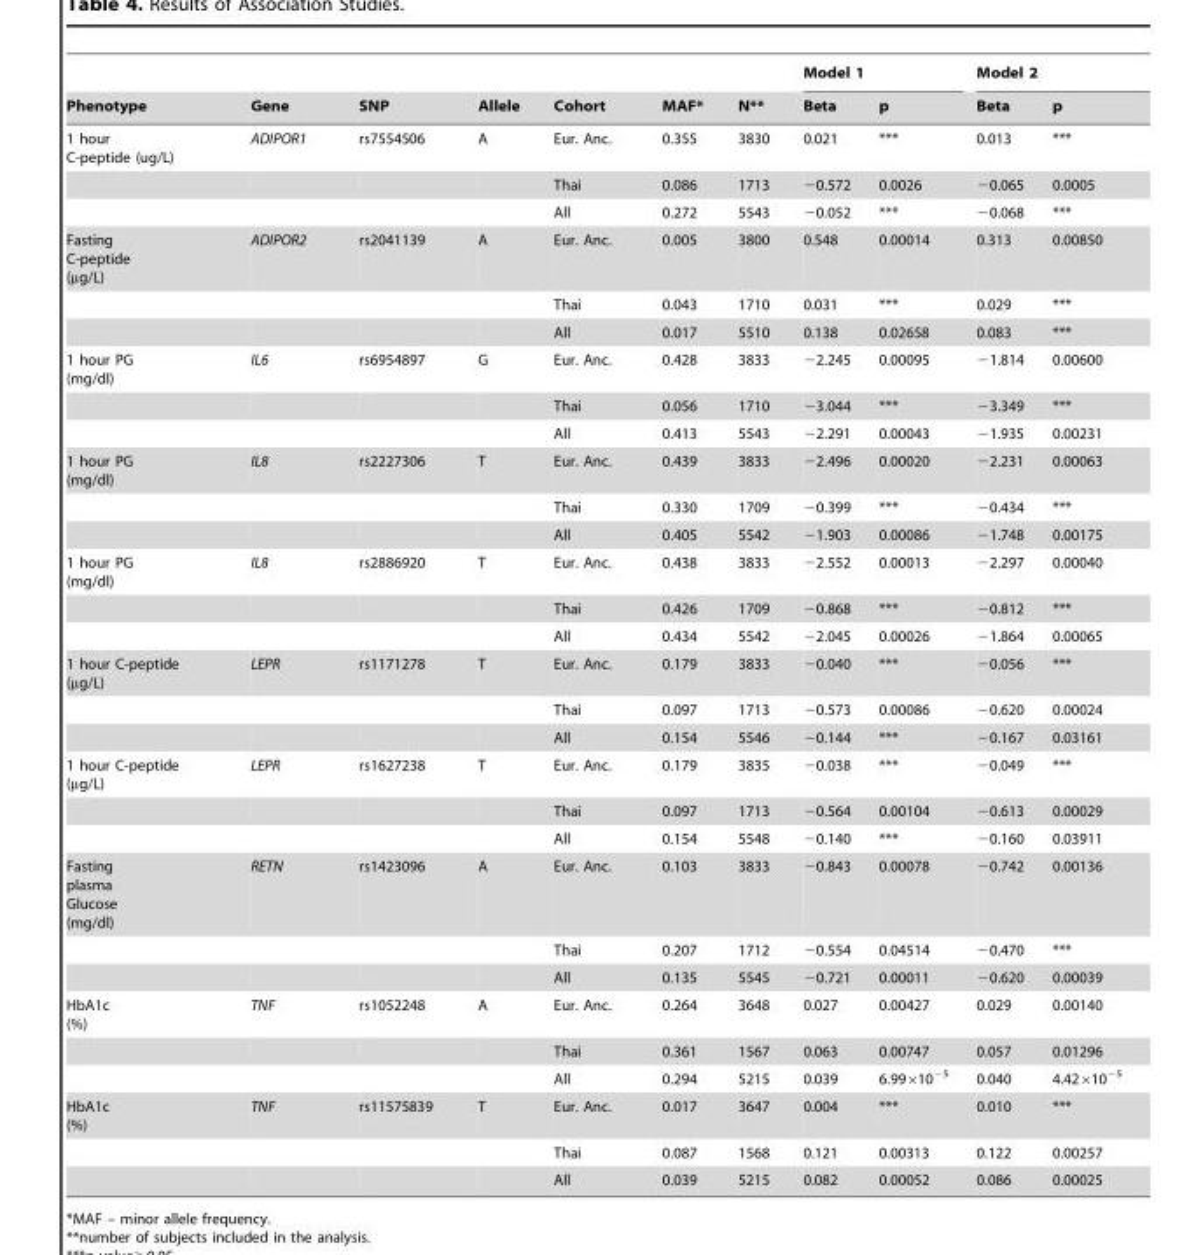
<table><thead><tr><td rowspan="2">Phenotype</td><td rowspan="2">Gene</td><td rowspan="2">SNP</td><td rowspan="2">Allele</td><td rowspan="2">Cohort</td><td rowspan="2">MAF*</td><td rowspan="2">N**</td><td colspan="2">Model 1</td><td colspan="2">Model 2</td></tr><tr><td>Beta</td><td>p</td><td>Beta</td><td>p</td></tr></thead><tbody><tr><td rowspan="3">1 hour C-peptide (ug/L)</td><td>ADIPOR1</td><td>rs7554506</td><td>A</td><td>Eur. Anc.</td><td>0.355</td><td>3830</td><td>0.021</td><td>***</td><td>0.013</td><td>***</td></tr><tr><td></td><td></td><td></td><td>Thai</td><td>0.086</td><td>1713</td><td>−0.572</td><td>0.0026</td><td>−0.065</td><td>0.0005</td></tr><tr><td></td><td></td><td></td><td>All</td><td>0.272</td><td>5543</td><td>−0.052</td><td>***</td><td>−0.068</td><td>***</td></tr><tr><td rowspan="3">Fasting C-peptide (µg/L)</td><td>ADIPOR2</td><td>rs2041139</td><td>A</td><td>Eur. Anc.</td><td>0.005</td><td>3800</td><td>0.548</td><td>0.00014</td><td>0.313</td><td>0.00850</td></tr><tr><td></td><td></td><td></td><td>Thai</td><td>0.043</td><td>1710</td><td>0.031</td><td>***</td><td>0.029</td><td>***</td></tr><tr><td></td><td></td><td></td><td>All</td><td>0.017</td><td>5510</td><td>0.138</td><td>0.02658</td><td>0.083</td><td>***</td></tr><tr><td rowspan="3">1 hour PG (mg/dl)</td><td>IL6</td><td>rs6954897</td><td>G</td><td>Eur. Anc.</td><td>0.428</td><td>3833</td><td>−2.245</td><td>0.00095</td><td>−1.814</td><td>0.00600</td></tr><tr><td></td><td></td><td></td><td>Thai</td><td>0.056</td><td>1710</td><td>−3.044</td><td>***</td><td>−3.349</td><td>***</td></tr><tr><td></td><td></td><td></td><td>All</td><td>0.413</td><td>5543</td><td>−2.291</td><td>0.00043</td><td>−1.935</td><td>0.00231</td></tr><tr><td rowspan="3">1 hour PG (mg/dl)</td><td>IL8</td><td>rs2227306</td><td>T</td><td>Eur. Anc.</td><td>0.439</td><td>3833</td><td>−2.496</td><td>0.00020</td><td>−2.231</td><td>0.00063</td></tr><tr><td></td><td></td><td></td><td>Thai</td><td>0.330</td><td>1709</td><td>−0.399</td><td>***</td><td>−0.434</td><td>***</td></tr><tr><td></td><td></td><td></td><td>All</td><td>0.405</td><td>5542</td><td>−1.903</td><td>0.00086</td><td>−1.748</td><td>0.00175</td></tr><tr><td rowspan="3">1 hour PG (mg/dl)</td><td>IL8</td><td>rs2886920</td><td>T</td><td>Eur. Anc.</td><td>0.438</td><td>3833</td><td>−2.552</td><td>0.00013</td><td>−2.297</td><td>0.00040</td></tr><tr><td></td><td></td><td></td><td>Thai</td><td>0.426</td><td>1709</td><td>−0.868</td><td>***</td><td>−0.812</td><td>***</td></tr><tr><td></td><td></td><td></td><td>All</td><td>0.434</td><td>5542</td><td>−2.045</td><td>0.00026</td><td>−1.864</td><td>0.00065</td></tr><tr><td rowspan="3">1 hour C-peptide (µg/L)</td><td>LEPR</td><td>rs1171278</td><td>T</td><td>Eur. Anc.</td><td>0.179</td><td>3833</td><td>−0.040</td><td>***</td><td>−0.056</td><td>***</td></tr><tr><td></td><td></td><td></td><td>Thai</td><td>0.097</td><td>1713</td><td>−0.573</td><td>0.00086</td><td>−0.620</td><td>0.00024</td></tr><tr><td></td><td></td><td></td><td>All</td><td>0.154</td><td>5546</td><td>−0.144</td><td>***</td><td>−0.167</td><td>0.03161</td></tr><tr><td rowspan="3">1 hour C-peptide (µg/L)</td><td>LEPR</td><td>rs1627238</td><td>T</td><td>Eur. Anc.</td><td>0.179</td><td>3835</td><td>−0.038</td><td>***</td><td>−0.049</td><td>***</td></tr><tr><td></td><td></td><td></td><td>Thai</td><td>0.097</td><td>1713</td><td>−0.564</td><td>0.00104</td><td>−0.613</td><td>0.00029</td></tr><tr><td></td><td></td><td></td><td>All</td><td>0.154</td><td>5548</td><td>−0.140</td><td>***</td><td>−0.160</td><td>0.03911</td></tr><tr><td rowspan="3">Fasting plasma Glucose (mg/dl)</td><td>RETN</td><td>rs1423096</td><td>A</td><td>Eur. Anc.</td><td>0.103</td><td>3833</td><td>−0.843</td><td>0.00078</td><td>−0.742</td><td>0.00136</td></tr><tr><td></td><td></td><td></td><td>Thai</td><td>0.207</td><td>1712</td><td>−0.554</td><td>0.04514</td><td>−0.470</td><td>***</td></tr><tr><td></td><td></td><td></td><td>All</td><td>0.135</td><td>5545</td><td>−0.721</td><td>0.00011</td><td>−0.620</td><td>0.00039</td></tr><tr><td rowspan="3">HbA1c (%)</td><td>TNF</td><td>rs1052248</td><td>A</td><td>Eur. Anc.</td><td>0.264</td><td>3648</td><td>0.027</td><td>0.00427</td><td>0.029</td><td>0.00140</td></tr><tr><td></td><td></td><td></td><td>Thai</td><td>0.361</td><td>1567</td><td>0.063</td><td>0.00747</td><td>0.057</td><td>0.01296</td></tr><tr><td></td><td></td><td></td><td>All</td><td>0.294</td><td>5215</td><td>0.039</td><td>6.99×10<sup>−5</sup></td><td>0.040</td><td>4.42×10<sup>−5</sup></td></tr><tr><td rowspan="3">HbA1c (%)</td><td>TNF</td><td>rs11575839</td><td>T</td><td>Eur. Anc.</td><td>0.017</td><td>3647</td><td>0.004</td><td>***</td><td>0.010</td><td>***</td></tr><tr><td></td><td></td><td></td><td>Thai</td><td>0.087</td><td>1568</td><td>0.121</td><td>0.00313</td><td>0.122</td><td>0.00257</td></tr><tr><td></td><td></td><td></td><td>All</td><td>0.039</td><td>5215</td><td>0.082</td><td>0.00052</td><td>0.086</td><td>0.00025</td></tr></tbody></table>